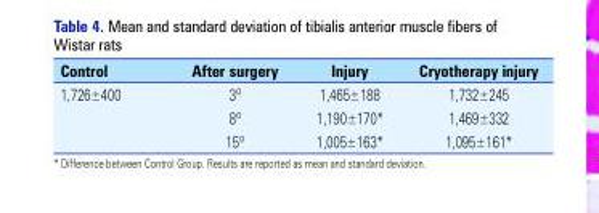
<table><thead><tr><td>Control</td><td>After surgery</td><td>Injury</td><td>Cryotherapy injury</td></tr></thead><tbody><tr><td rowspan="3">1,726±400</td><td>3º</td><td>1,465±188</td><td>1,732±245</td></tr><tr><td>8º</td><td>1,190±170*</td><td>1,469±332</td></tr><tr><td>15º</td><td>1,005±163*</td><td>1,095±161*</td></tr></tbody></table>